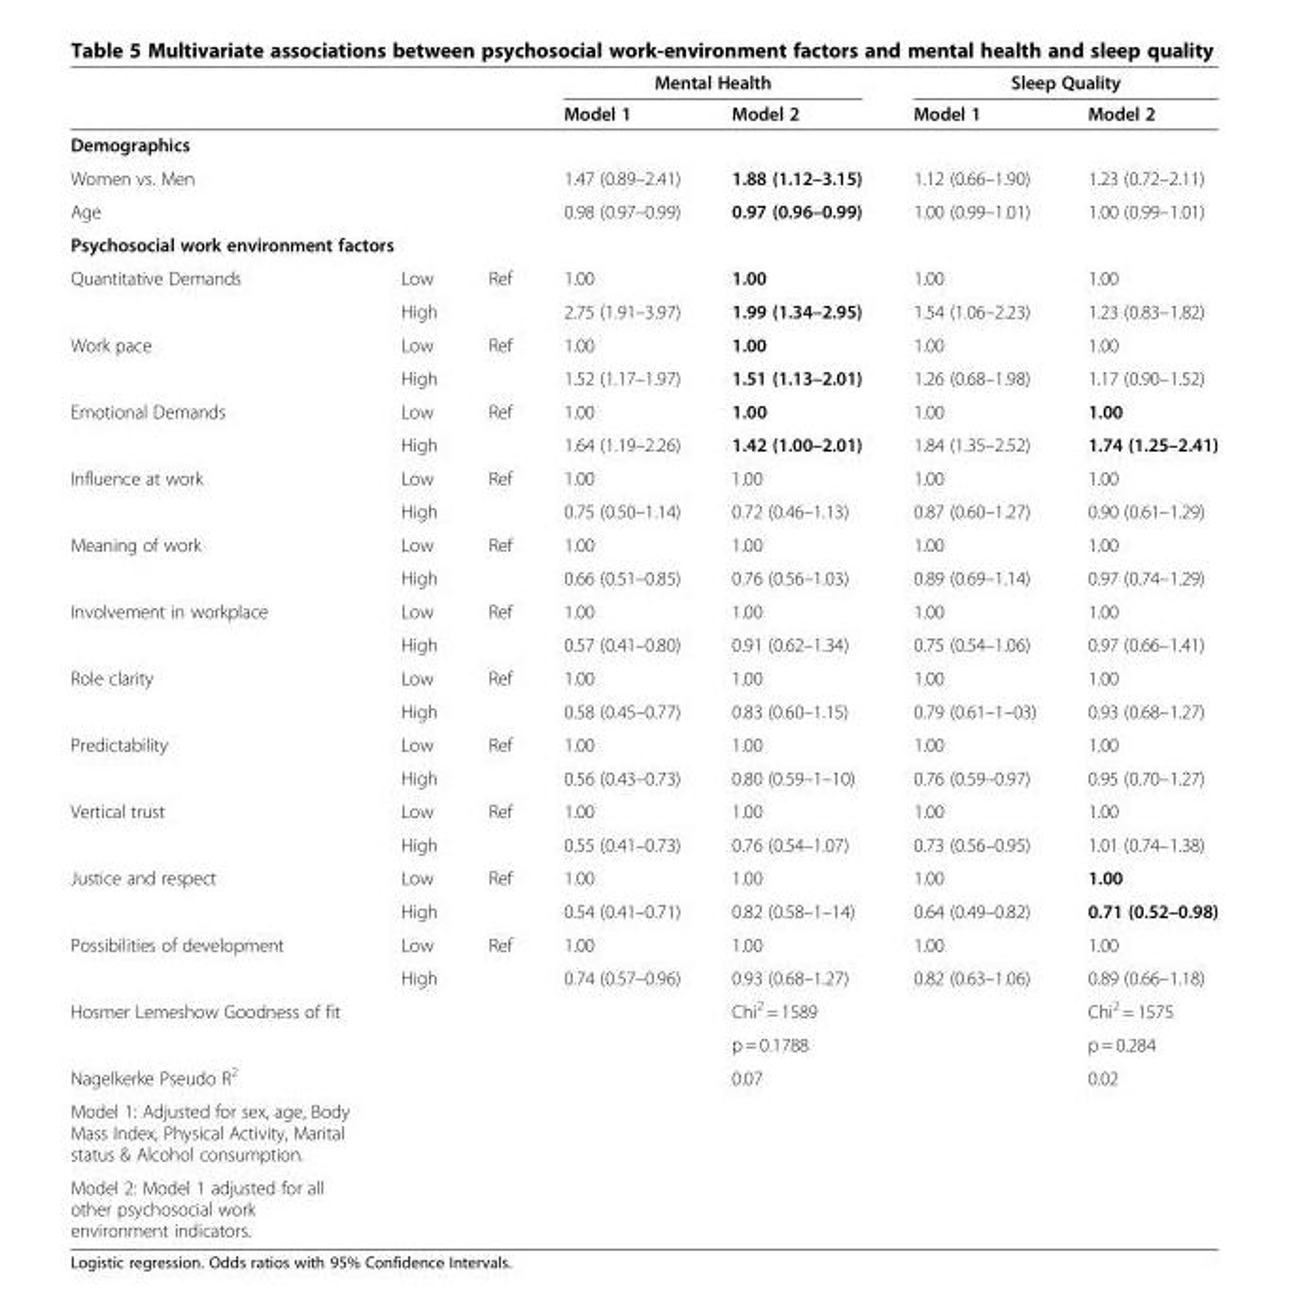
<table><thead><tr><td rowspan="2"></td><td rowspan="2"></td><td rowspan="2"></td><td colspan="2">Mental Health</td><td colspan="2">Sleep Quality</td></tr><tr><td>Model 1</td><td>Model 2</td><td>Model 1</td><td>Model 2</td></tr></thead><tbody><tr><td colspan="7">Demographics</td></tr><tr><td>Women vs. Men</td><td></td><td></td><td>1.47 (0.89–2.41)</td><td>1.88 (1.12–3.15)</td><td>1.12 (0.66–1.90)</td><td>1.23 (0.72–2.11)</td></tr><tr><td>Age</td><td></td><td></td><td>0.98 (0.97–0.99)</td><td>0.97 (0.96–0.99)</td><td>1.00 (0.99–1.01)</td><td>1.00 (0.99–1.01)</td></tr><tr><td colspan="7">Psychosocial work environment factors</td></tr><tr><td rowspan="2">Quantitative Demands</td><td>Low</td><td>Ref</td><td>1.00</td><td>1.00</td><td>1.00</td><td>1.00</td></tr><tr><td>High</td><td></td><td>2.75 (1.91–3.97)</td><td>1.99 (1.34–2.95)</td><td>1.54 (1.06–2.23)</td><td>1.23 (0.83–1.82)</td></tr><tr><td rowspan="2">Work pace</td><td>Low</td><td>Ref</td><td>1.00</td><td>1.00</td><td>1.00</td><td>1.00</td></tr><tr><td>High</td><td></td><td>1.52 (1.17–1.97)</td><td>1.51 (1.13–2.01)</td><td>1.26 (0.68–1.98)</td><td>1.17 (0.90–1.52)</td></tr><tr><td rowspan="2">Emotional Demands</td><td>Low</td><td>Ref</td><td>1.00</td><td>1.00</td><td>1.00</td><td>1.00</td></tr><tr><td>High</td><td></td><td>1.64 (1.19–2.26)</td><td>1.42 (1.00–2.01)</td><td>1.84 (1.35–2.52)</td><td>1.74 (1.25–2.41)</td></tr><tr><td rowspan="2">Influence at work</td><td>Low</td><td>Ref</td><td>1.00</td><td>1.00</td><td>1.00</td><td>1.00</td></tr><tr><td>High</td><td></td><td>0.75 (0.50–1.14)</td><td>0.72 (0.46–1.13)</td><td>0.87 (0.60–1.27)</td><td>0.90 (0.61–1.29)</td></tr><tr><td rowspan="2">Meaning of work</td><td>Low</td><td>Ref</td><td>1.00</td><td>1.00</td><td>1.00</td><td>1.00</td></tr><tr><td>High</td><td></td><td>0.66 (0.51–0.85)</td><td>0.76 (0.56–1.03)</td><td>0.89 (0.69–1.14)</td><td>0.97 (0.74–1.29)</td></tr><tr><td rowspan="2">Involvement in workplace</td><td>Low</td><td>Ref</td><td>1.00</td><td>1.00</td><td>1.00</td><td>1.00</td></tr><tr><td>High</td><td></td><td>0.57 (0.41–0.80)</td><td>0.91 (0.62–1.34)</td><td>0.75 (0.54–1.06)</td><td>0.97 (0.66–1.41)</td></tr><tr><td rowspan="2">Role clarity</td><td>Low</td><td>Ref</td><td>1.00</td><td>1.00</td><td>1.00</td><td>1.00</td></tr><tr><td>High</td><td></td><td>0.58 (0.45–0.77)</td><td>0.83 (0.60–1.15)</td><td>0.79 (0.61–1–03)</td><td>0.93 (0.68–1.27)</td></tr><tr><td rowspan="2">Predictability</td><td>Low</td><td>Ref</td><td>1.00</td><td>1.00</td><td>1.00</td><td>1.00</td></tr><tr><td>High</td><td></td><td>0.56 (0.43–0.73)</td><td>0.80 (0.59–1–10)</td><td>0.76 (0.59–0.97)</td><td>0.95 (0.70–1.27)</td></tr><tr><td rowspan="2">Vertical trust</td><td>Low</td><td>Ref</td><td>1.00</td><td>1.00</td><td>1.00</td><td>1.00</td></tr><tr><td>High</td><td></td><td>0.55 (0.41–0.73)</td><td>0.76 (0.54–1.07)</td><td>0.73 (0.56–0.95)</td><td>1.01 (0.74–1.38)</td></tr><tr><td rowspan="2">Justice and respect</td><td>Low</td><td>Ref</td><td>1.00</td><td>1.00</td><td>1.00</td><td>1.00</td></tr><tr><td>High</td><td></td><td>0.54 (0.41–0.71)</td><td>0.82 (0.58–1–14)</td><td>0.64 (0.49–0.82)</td><td>0.71 (0.52–0.98)</td></tr><tr><td rowspan="2">Possibilities of development</td><td>Low</td><td>Ref</td><td>1.00</td><td>1.00</td><td>1.00</td><td>1.00</td></tr><tr><td>High</td><td></td><td>0.74 (0.57–0.96)</td><td>0.93 (0.68–1.27)</td><td>0.82 (0.63–1.06)</td><td>0.89 (0.66–1.18)</td></tr><tr><td rowspan="2">Hosmer Lemeshow Goodness of fit</td><td rowspan="2"></td><td rowspan="2"></td><td rowspan="2"></td><td>Chi<sup>2</sup> = 1589</td><td rowspan="2"></td><td>Chi<sup>2</sup> = 1575</td></tr><tr><td>p = 0.1788</td><td>p = 0.284</td></tr><tr><td>Nagelkerke Pseudo R<sup>2</sup></td><td></td><td></td><td></td><td>0.07</td><td></td><td>0.02</td></tr><tr><td colspan="7">Model 1: Adjusted for sex, age, Body Mass Index, Physical Activity, Marital status &amp; Alcohol consumption.</td></tr><tr><td>Model 2: Model 1 adjusted for all other psychosocial work environment indicators.</td><td></td><td></td><td></td><td></td><td></td><td></td></tr></tbody></table>